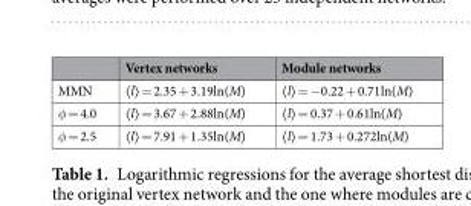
<table><thead><tr><td></td><td>Vertex networks</td><td>Module networks</td></tr></thead><tbody><tr><td>MMN</td><td>〈l〉 = 2.35 + 3.19ln(M)</td><td>〈l〉 = −0.22 + 0.71ln(M)</td></tr><tr><td>φ = 4.0</td><td>〈l〉 = 3.67 + 2.88ln(M)</td><td>〈l〉 = 0.37 + 0.61ln(M)</td></tr><tr><td>φ = 2.5</td><td>〈l〉 = 7.91 + 1.35ln(M)</td><td>〈l〉 = 1.73 + 0.272ln(M)</td></tr></tbody></table>